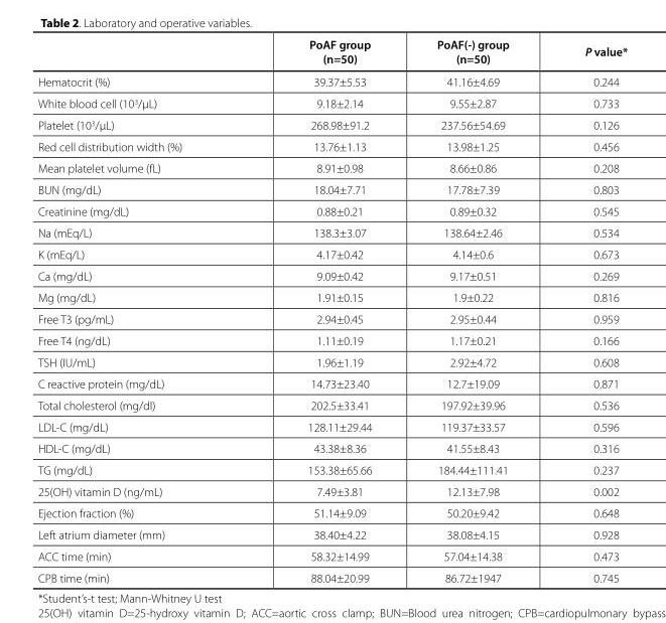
<table><thead><tr><td></td><td>PoAF group (n=50)</td><td>PoAF(-) group (n=50)</td><td>P value*</td></tr></thead><tbody><tr><td>Hematocrit (%)</td><td>39.37±5.53</td><td>41.16±4.69</td><td>0.244</td></tr><tr><td>White blood cell (10<sup>3</sup>/µL)</td><td>9.18±2.14</td><td>9.55±2.87</td><td>0.733</td></tr><tr><td>Platelet (10<sup>3</sup>/µL)</td><td>268.98±91.2</td><td>237.56±54.69</td><td>0.126</td></tr><tr><td>Red cell distribution width (%)</td><td>13.76±1.13</td><td>13.98±1.25</td><td>0.456</td></tr><tr><td>Mean platelet volume (fL)</td><td>8.91±0.98</td><td>8.66±0.86</td><td>0.208</td></tr><tr><td>BUN (mg/dL)</td><td>18.04±7.71</td><td>17.78±7.39</td><td>0.803</td></tr><tr><td>Creatinine (mg/dL)</td><td>0.88±0.21</td><td>0.89±0.32</td><td>0.545</td></tr><tr><td>Na (mEq/L)</td><td>138.3±3.07</td><td>138.64±2.46</td><td>0.534</td></tr><tr><td>K (mEq/L)</td><td>4.17±0.42</td><td>4.14±0.6</td><td>0.673</td></tr><tr><td>Ca (mg/dL)</td><td>9.09±0.42</td><td>9.17±0.51</td><td>0.269</td></tr><tr><td>Mg (mg/dL)</td><td>1.91±0.15</td><td>1.9±0.22</td><td>0.816</td></tr><tr><td>Free T3 (pg/mL)</td><td>2.94±0.45</td><td>2.95±0.44</td><td>0.959</td></tr><tr><td>Free T4 (ng/dL)</td><td>1.11±0.19</td><td>1.17±0.21</td><td>0.166</td></tr><tr><td>TSH (IU/mL)</td><td>1.96±1.19</td><td>2.92±4.72</td><td>0.608</td></tr><tr><td>C reactive protein (mg/dL)</td><td>14.73±23.40</td><td>12.7±19.09</td><td>0.871</td></tr><tr><td>Total cholesterol (mg/dl)</td><td>202.5±33.41</td><td>197.92±39.96</td><td>0.536</td></tr><tr><td>LDL-C (mg/dL)</td><td>128.11±29.44</td><td>119.37±33.57</td><td>0.596</td></tr><tr><td>HDL-C (mg/dL)</td><td>43.38±8.36</td><td>41.55±8.43</td><td>0.316</td></tr><tr><td>TG (mg/dL)</td><td>153.38±65.66</td><td>184.44±111.41</td><td>0.237</td></tr><tr><td>25(OH) vitamin D (ng/mL)</td><td>7.49±3.81</td><td>12.13±7.98</td><td>0.002</td></tr><tr><td>Ejection fraction (%)</td><td>51.14±9.09</td><td>50.20±9.42</td><td>0.648</td></tr><tr><td>Left atrium diameter (mm)</td><td>38.40±4.22</td><td>38.08±4.15</td><td>0.928</td></tr><tr><td>ACC time (min)</td><td>58.32±14.99</td><td>57.04±14.38</td><td>0.473</td></tr><tr><td>CPB time (min)</td><td>88.04±20.99</td><td>86.72±1947</td><td>0.745</td></tr></tbody></table>